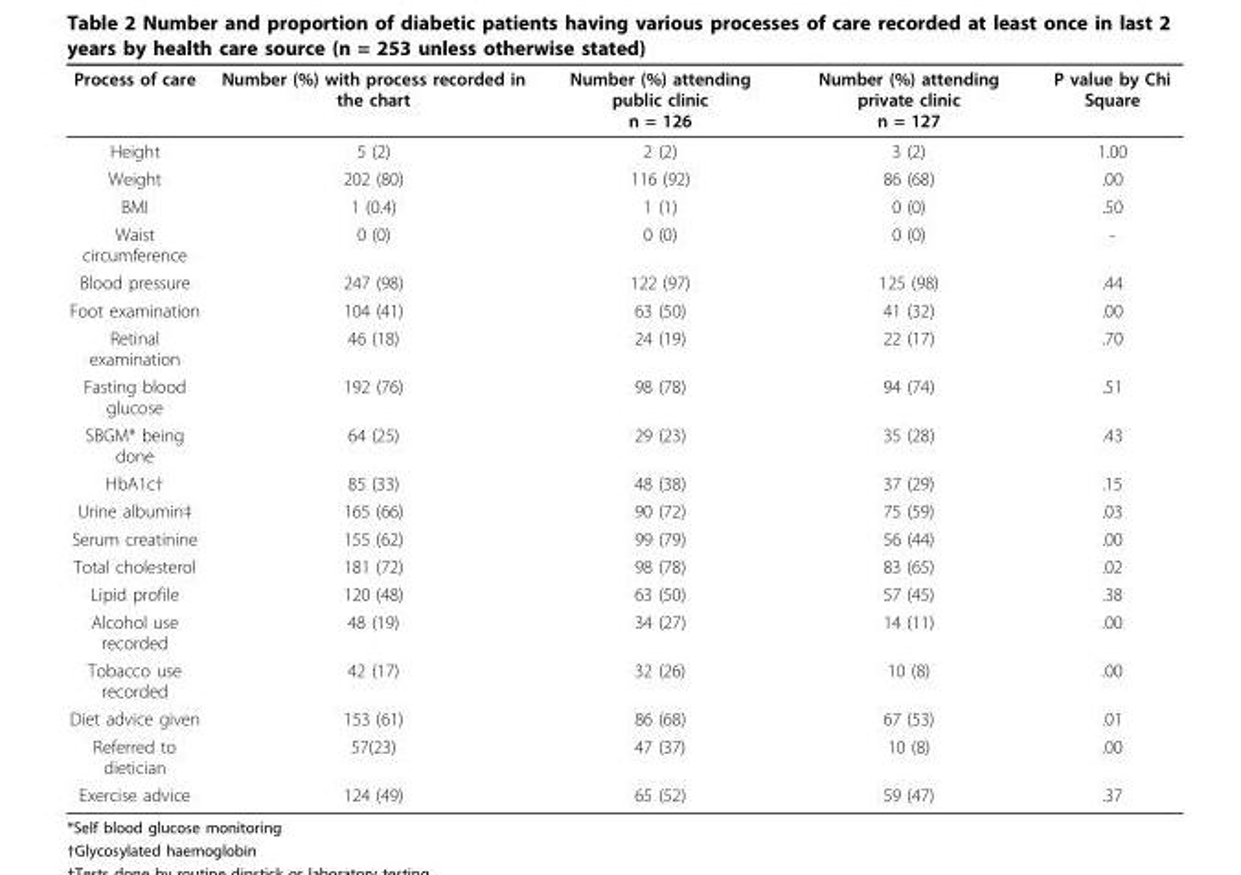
<table><thead><tr><td>Process of care</td><td>Number (%) with process recorded in the chart</td><td>Number (%) attending public clinic n = 126</td><td>Number (%) attending private clinic n = 127</td><td>P value by Chi Square</td></tr></thead><tbody><tr><td>Height</td><td>5 (2)</td><td>2 (2)</td><td>3 (2)</td><td>1.00</td></tr><tr><td>Weight</td><td>202 (80)</td><td>116 (92)</td><td>86 (68)</td><td>.00</td></tr><tr><td>BMI</td><td>1 (0.4)</td><td>1 (1)</td><td>0 (0)</td><td>.50</td></tr><tr><td>Waist circumference</td><td>0 (0)</td><td>0 (0)</td><td>0 (0)</td><td>-</td></tr><tr><td>Blood pressure</td><td>247 (98)</td><td>122 (97)</td><td>125 (98)</td><td>.44</td></tr><tr><td>Foot examination</td><td>104 (41)</td><td>63 (50)</td><td>41 (32)</td><td>.00</td></tr><tr><td>Retinal examination</td><td>46 (18)</td><td>24 (19)</td><td>22 (17)</td><td>.70</td></tr><tr><td>Fasting blood glucose</td><td>192 (76)</td><td>98 (78)</td><td>94 (74)</td><td>.51</td></tr><tr><td>SBGM* being done</td><td>64 (25)</td><td>29 (23)</td><td>35 (28)</td><td>.43</td></tr><tr><td>HbA1c†</td><td>85 (33)</td><td>48 (38)</td><td>37 (29)</td><td>.15</td></tr><tr><td>Urine albumin‡</td><td>165 (66)</td><td>90 (72)</td><td>75 (59)</td><td>.03</td></tr><tr><td>Serum creatinine</td><td>155 (62)</td><td>99 (79)</td><td>56 (44)</td><td>.00</td></tr><tr><td>Total cholesterol</td><td>181 (72)</td><td>98 (78)</td><td>83 (65)</td><td>.02</td></tr><tr><td>Lipid profile</td><td>120 (48)</td><td>63 (50)</td><td>57 (45)</td><td>.38</td></tr><tr><td>Alcohol use recorded</td><td>48 (19)</td><td>34 (27)</td><td>14 (11)</td><td>.00</td></tr><tr><td>Tobacco use recorded</td><td>42 (17)</td><td>32 (26)</td><td>10 (8)</td><td>.00</td></tr><tr><td>Diet advice given</td><td>153 (61)</td><td>86 (68)</td><td>67 (53)</td><td>.01</td></tr><tr><td>Referred to dietician</td><td>57(23)</td><td>47 (37)</td><td>10 (8)</td><td>.00</td></tr><tr><td>Exercise advice</td><td>124 (49)</td><td>65 (52)</td><td>59 (47)</td><td>.37</td></tr></tbody></table>